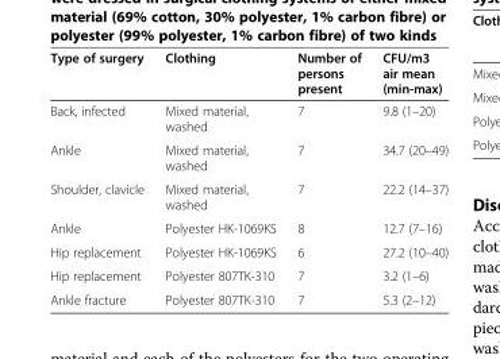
<table><thead><tr><td>Type of surgery</td><td>Clothing</td><td>Number of persons present</td><td>CFU/m3 air mean (min-max)</td></tr></thead><tbody><tr><td>Back, infected</td><td>Mixed material, washed</td><td>7</td><td>9.8 (1–20)</td></tr><tr><td>Ankle</td><td>Mixed material, washed</td><td>7</td><td>34.7 (20–49)</td></tr><tr><td>Shoulder, clavicle</td><td>Mixed material, washed</td><td>7</td><td>22.2 (14–37)</td></tr><tr><td>Ankle</td><td>Polyester HK-1069KS</td><td>8</td><td>12.7 (7–16)</td></tr><tr><td>Hip replacement</td><td>Polyester HK-1069KS</td><td>6</td><td>27.2 (10–40)</td></tr><tr><td>Hip replacement</td><td>Polyester 807TK-310</td><td>7</td><td>3.2 (1–6)</td></tr><tr><td>Ankle fracture</td><td>Polyester 807TK-310</td><td>7</td><td>5.3 (2–12)</td></tr></tbody></table>